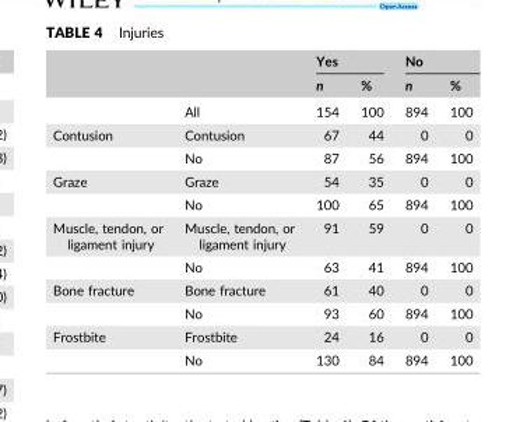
<table><thead><tr><td rowspan="2"></td><td rowspan="2"></td><td colspan="2">Yes</td><td colspan="2">No</td></tr><tr><td>n</td><td>%</td><td>n</td><td>%</td></tr></thead><tbody><tr><td></td><td>All</td><td>154</td><td>100</td><td>894</td><td>100</td></tr><tr><td rowspan="2">Contusion</td><td>Contusion</td><td>67</td><td>44</td><td>0</td><td>0</td></tr><tr><td>No</td><td>87</td><td>56</td><td>894</td><td>100</td></tr><tr><td rowspan="2">Graze</td><td>Graze</td><td>54</td><td>35</td><td>0</td><td>0</td></tr><tr><td>No</td><td>100</td><td>65</td><td>894</td><td>100</td></tr><tr><td rowspan="2">Muscle, tendon, or ligament injury</td><td>Muscle, tendon, or ligament injury</td><td>91</td><td>59</td><td>0</td><td>0</td></tr><tr><td>No</td><td>63</td><td>41</td><td>894</td><td>100</td></tr><tr><td rowspan="2">Bone fracture</td><td>Bone fracture</td><td>61</td><td>40</td><td>0</td><td>0</td></tr><tr><td>No</td><td>93</td><td>60</td><td>894</td><td>100</td></tr><tr><td rowspan="2">Frostbite</td><td>Frostbite</td><td>24</td><td>16</td><td>0</td><td>0</td></tr><tr><td>No</td><td>130</td><td>84</td><td>894</td><td>100</td></tr></tbody></table>